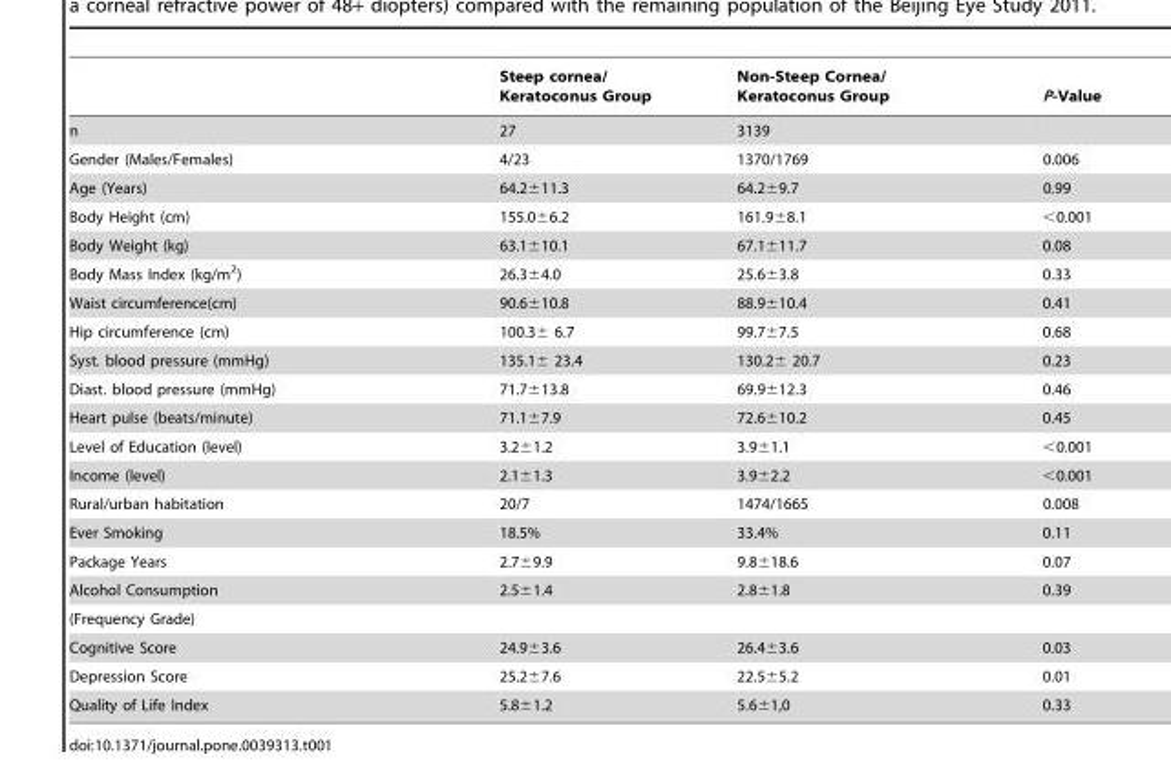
<table><thead><tr><td></td><td>Steep cornea/ Keratoconus Group</td><td>Non-Steep Cornea/ Keratoconus Group</td><td>P-Value</td></tr></thead><tbody><tr><td>n</td><td>27</td><td>3139</td><td></td></tr><tr><td>Gender (Males/Females)</td><td>4/23</td><td>1370/1769</td><td>0.006</td></tr><tr><td>Age (Years)</td><td>64.2±11.3</td><td>64.2±9.7</td><td>0.99</td></tr><tr><td>Body Height (cm)</td><td>155.0±6.2</td><td>161.9±8.1</td><td>&lt;0.001</td></tr><tr><td>Body Weight (kg)</td><td>63.1±10.1</td><td>67.1±11.7</td><td>0.08</td></tr><tr><td>Body Mass Index (kg/m<sup>2</sup>)</td><td>26.3±4.0</td><td>25.6±3.8</td><td>0.33</td></tr><tr><td>Waist circumference(cm)</td><td>90.6±10.8</td><td>88.9±10.4</td><td>0.41</td></tr><tr><td>Hip circumference (cm)</td><td>100.3± 6.7</td><td>99.7±7.5</td><td>0.68</td></tr><tr><td>Syst. blood pressure (mmHg)</td><td>135.1± 23.4</td><td>130.2± 20.7</td><td>0.23</td></tr><tr><td>Diast. blood pressure (mmHg)</td><td>71.7±13.8</td><td>69.9±12.3</td><td>0.46</td></tr><tr><td>Heart pulse (beats/minute)</td><td>71.1±7.9</td><td>72.6±10.2</td><td>0.45</td></tr><tr><td>Level of Education (level)</td><td>3.2±1.2</td><td>3.9±1.1</td><td>&lt;0.001</td></tr><tr><td>Income (level)</td><td>2.1±1.3</td><td>3.9±2.2</td><td>&lt;0.001</td></tr><tr><td>Rural/urban habitation</td><td>20/7</td><td>1474/1665</td><td>0.008</td></tr><tr><td>Ever Smoking</td><td>18.5%</td><td>33.4%</td><td>0.11</td></tr><tr><td>Package Years</td><td>2.7±9.9</td><td>9.8±18.6</td><td>0.07</td></tr><tr><td>Alcohol Consumption</td><td>2.5±1.4</td><td>2.8±1.8</td><td>0.39</td></tr><tr><td colspan="4">(Frequency Grade)</td></tr><tr><td>Cognitive Score</td><td>24.9±3.6</td><td>26.4±3.6</td><td>0.03</td></tr><tr><td>Depression Score</td><td>25.2±7.6</td><td>22.5±5.2</td><td>0.01</td></tr><tr><td>Quality of Life Index</td><td>5.8±1.2</td><td>5.6±1,0</td><td>0.33</td></tr></tbody></table>